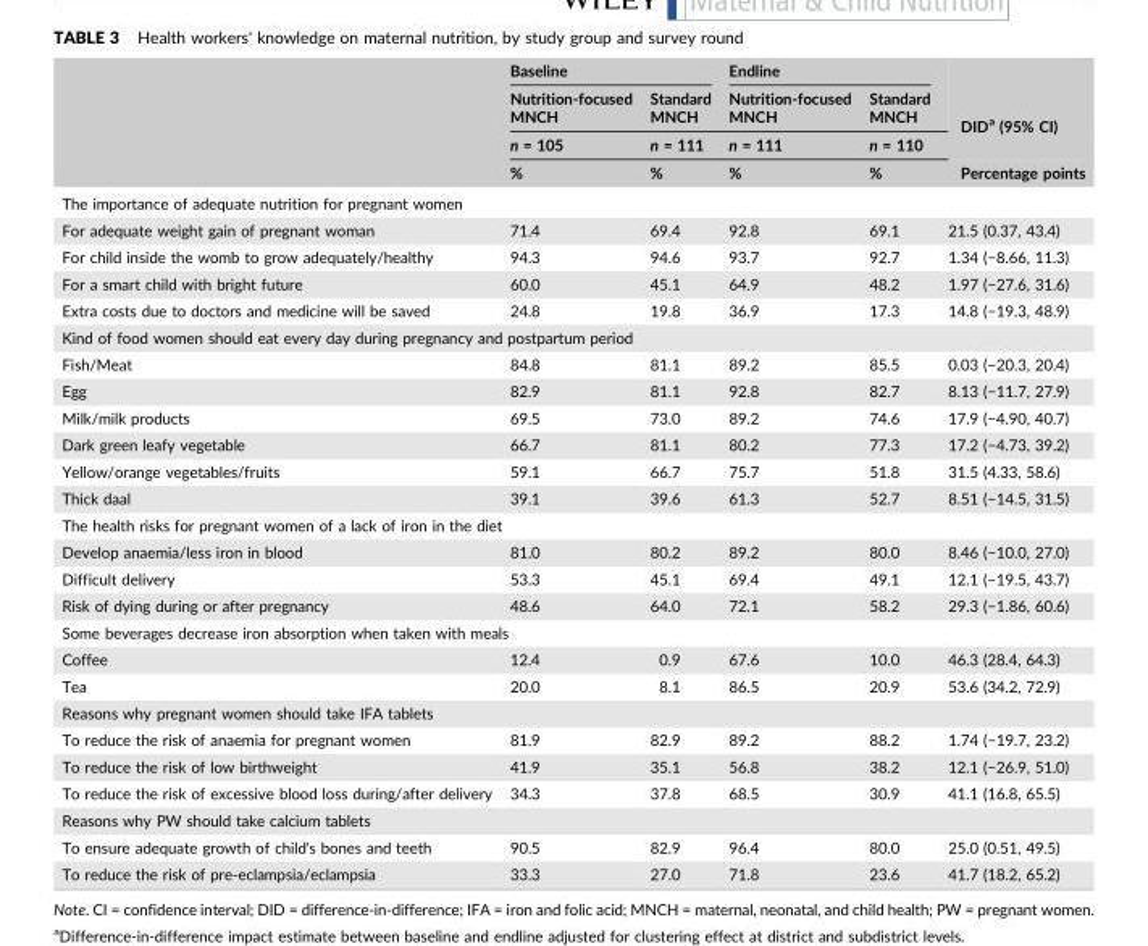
<table><thead><tr><td rowspan="4"></td><td colspan="2">Baseline</td><td colspan="2">Endline</td><td rowspan="4">DID<sup>a</sup> (95% CI) Percentage points</td></tr><tr><td rowspan="3">Nutrition‐focused MNCH n = 105 %</td><td rowspan="3">Standard MNCH n = 111 %</td><td rowspan="3">Nutrition‐focused MNCH n = 111 %</td><td rowspan="3">Standard MNCH n = 110 %</td></tr><tr></tr><tr></tr></thead><tbody><tr><td colspan="6">The importance of adequate nutrition for pregnant women</td></tr><tr><td>For adequate weight gain of pregnant woman</td><td>71.4</td><td>69.4</td><td>92.8</td><td>69.1</td><td>21.5 (0.37, 43.4)</td></tr><tr><td>For child inside the womb to grow adequately/healthy</td><td>94.3</td><td>94.6</td><td>93.7</td><td>92.7</td><td>1.34 (−8.66, 11.3)</td></tr><tr><td>For a smart child with bright future</td><td>60.0</td><td>45.1</td><td>64.9</td><td>48.2</td><td>1.97 (−27.6, 31.6)</td></tr><tr><td>Extra costs due to doctors and medicine will be saved</td><td>24.8</td><td>19.8</td><td>36.9</td><td>17.3</td><td>14.8 (−19.3, 48.9)</td></tr><tr><td colspan="6">Kind of food women should eat every day during pregnancy and postpartum period</td></tr><tr><td>Fish/Meat</td><td>84.8</td><td>81.1</td><td>89.2</td><td>85.5</td><td>0.03 (−20.3, 20.4)</td></tr><tr><td>Egg</td><td>82.9</td><td>81.1</td><td>92.8</td><td>82.7</td><td>8.13 (−11.7, 27.9)</td></tr><tr><td>Milk/milk products</td><td>69.5</td><td>73.0</td><td>89.2</td><td>74.6</td><td>17.9 (−4.90, 40.7)</td></tr><tr><td>Dark green leafy vegetable</td><td>66.7</td><td>81.1</td><td>80.2</td><td>77.3</td><td>17.2 (−4.73, 39.2)</td></tr><tr><td>Yellow/orange vegetables/fruits</td><td>59.1</td><td>66.7</td><td>75.7</td><td>51.8</td><td>31.5 (4.33, 58.6)</td></tr><tr><td>Thick daal</td><td>39.1</td><td>39.6</td><td>61.3</td><td>52.7</td><td>8.51 (−14.5, 31.5)</td></tr><tr><td colspan="6">The health risks for pregnant women of a lack of iron in the diet</td></tr><tr><td>Develop anaemia/less iron in blood</td><td>81.0</td><td>80.2</td><td>89.2</td><td>80.0</td><td>8.46 (−10.0, 27.0)</td></tr><tr><td>Difficult delivery</td><td>53.3</td><td>45.1</td><td>69.4</td><td>49.1</td><td>12.1 (−19.5, 43.7)</td></tr><tr><td>Risk of dying during or after pregnancy</td><td>48.6</td><td>64.0</td><td>72.1</td><td>58.2</td><td>29.3 (−1.86, 60.6)</td></tr><tr><td colspan="6">Some beverages decrease iron absorption when taken with meals</td></tr><tr><td>Coffee</td><td>12.4</td><td>0.9</td><td>67.6</td><td>10.0</td><td>46.3 (28.4, 64.3)</td></tr><tr><td>Tea</td><td>20.0</td><td>8.1</td><td>86.5</td><td>20.9</td><td>53.6 (34.2, 72.9)</td></tr><tr><td colspan="6">Reasons why pregnant women should take IFA tablets</td></tr><tr><td>To reduce the risk of anaemia for pregnant women</td><td>81.9</td><td>82.9</td><td>89.2</td><td>88.2</td><td>1.74 (−19.7, 23.2)</td></tr><tr><td>To reduce the risk of low birthweight</td><td>41.9</td><td>35.1</td><td>56.8</td><td>38.2</td><td>12.1 (−26.9, 51.0)</td></tr><tr><td>To reduce the risk of excessive blood loss during/after delivery</td><td>34.3</td><td>37.8</td><td>68.5</td><td>30.9</td><td>41.1 (16.8, 65.5)</td></tr><tr><td colspan="6">Reasons why PW should take calcium tablets</td></tr><tr><td>To ensure adequate growth of child&#x27;s bones and teeth</td><td>90.5</td><td>82.9</td><td>96.4</td><td>80.0</td><td>25.0 (0.51, 49.5)</td></tr><tr><td>To reduce the risk of pre‐eclampsia/eclampsia</td><td>33.3</td><td>27.0</td><td>71.8</td><td>23.6</td><td>41.7 (18.2, 65.2)</td></tr></tbody></table>